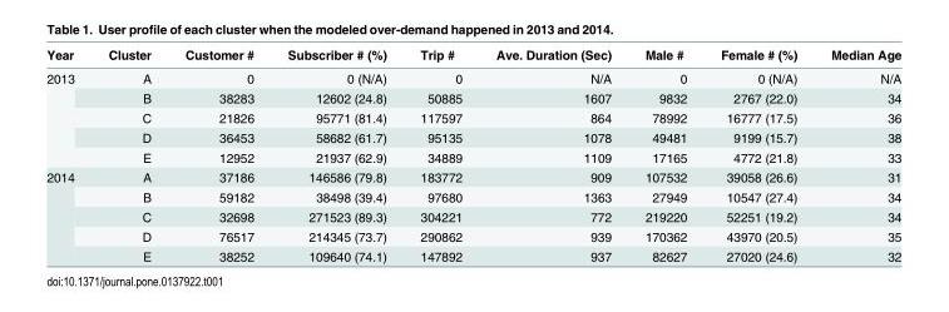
<table><thead><tr><td>Year</td><td>Cluster</td><td>Customer #</td><td>Subscriber # (%)</td><td>Trip #</td><td>Ave. Duration (Sec)</td><td>Male #</td><td>Female # (%)</td><td>Median Age</td></tr></thead><tbody><tr><td rowspan="5">2013</td><td>A</td><td>0</td><td>0 (N/A)</td><td>0</td><td>N/A</td><td>0</td><td>0 (N/A)</td><td>N/A</td></tr><tr><td>B</td><td>38283</td><td>12602 (24.8)</td><td>50885</td><td>1607</td><td>9832</td><td>2767 (22.0)</td><td>34</td></tr><tr><td>C</td><td>21826</td><td>95771 (81.4)</td><td>117597</td><td>864</td><td>78992</td><td>16777 (17.5)</td><td>36</td></tr><tr><td>D</td><td>36453</td><td>58682 (61.7)</td><td>95135</td><td>1078</td><td>49481</td><td>9199 (15.7)</td><td>38</td></tr><tr><td>E</td><td>12952</td><td>21937 (62.9)</td><td>34889</td><td>1109</td><td>17165</td><td>4772 (21.8)</td><td>33</td></tr><tr><td rowspan="5">2014</td><td>A</td><td>37186</td><td>146586 (79.8)</td><td>183772</td><td>909</td><td>107532</td><td>39058 (26.6)</td><td>31</td></tr><tr><td>B</td><td>59182</td><td>38498 (39.4)</td><td>97680</td><td>1363</td><td>27949</td><td>10547 (27.4)</td><td>34</td></tr><tr><td>C</td><td>32698</td><td>271523 (89.3)</td><td>304221</td><td>772</td><td>219220</td><td>52251 (19.2)</td><td>34</td></tr><tr><td>D</td><td>76517</td><td>214345 (73.7)</td><td>290862</td><td>939</td><td>170362</td><td>43970 (20.5)</td><td>35</td></tr><tr><td>E</td><td>38252</td><td>109640 (74.1)</td><td>147892</td><td>937</td><td>82627</td><td>27020 (24.6)</td><td>32</td></tr></tbody></table>